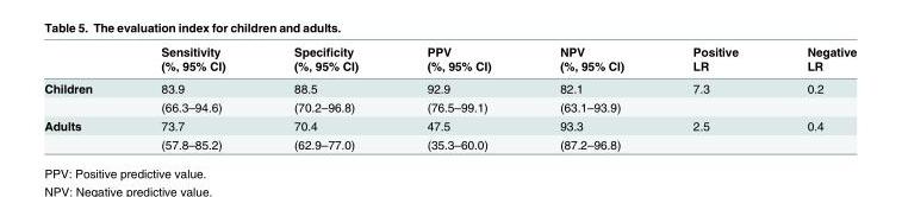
<table><thead><tr><td rowspan="2"></td><td rowspan="2">Sensitivity (%, 95% CI)</td><td rowspan="2">Specificity (%, 95% CI)</td><td rowspan="2">PPV (%, 95% CI)</td><td rowspan="2">NPV (%, 95% CI)</td><td rowspan="2">Positive LR</td><td rowspan="2">Negative LR</td></tr><tr></tr></thead><tbody><tr><td rowspan="2">Children</td><td>83.9</td><td>88.5</td><td>92.9</td><td>82.1</td><td>7.3</td><td>0.2</td></tr><tr><td>(66.3–94.6)</td><td>(70.2–96.8)</td><td>(76.5–99.1)</td><td>(63.1–93.9)</td><td></td><td></td></tr><tr><td rowspan="2">Adults</td><td>73.7</td><td>70.4</td><td>47.5</td><td>93.3</td><td>2.5</td><td>0.4</td></tr><tr><td>(57.8–85.2)</td><td>(62.9–77.0)</td><td>(35.3–60.0)</td><td>(87.2–96.8)</td><td></td><td></td></tr></tbody></table>